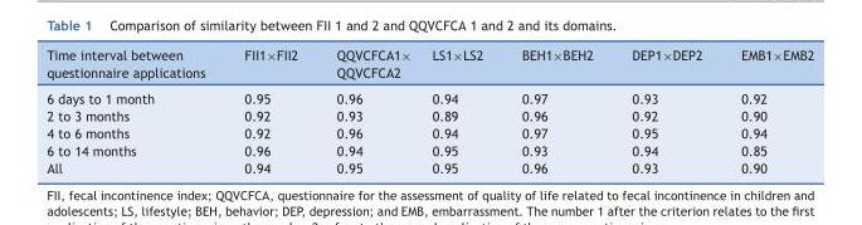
<table><thead><tr><td>Time interval between questionnaire applications</td><td>FII1×FII2</td><td>QQVCFCA1× QQVCFCA2</td><td>LS1×LS2</td><td>BEH1×BEH2</td><td>DEP1×DEP2</td><td>EMB1×EMB2</td></tr></thead><tbody><tr><td>6 days to 1 month</td><td>0.95</td><td>0.96</td><td>0.94</td><td>0.97</td><td>0.93</td><td>0.92</td></tr><tr><td>2 to 3 months</td><td>0.92</td><td>0.93</td><td>0.89</td><td>0.96</td><td>0.92</td><td>0.90</td></tr><tr><td>4 to 6 months</td><td>0.92</td><td>0.96</td><td>0.94</td><td>0.97</td><td>0.95</td><td>0.94</td></tr><tr><td>6 to 14 months</td><td>0.96</td><td>0.94</td><td>0.95</td><td>0.93</td><td>0.94</td><td>0.85</td></tr><tr><td>All</td><td>0.94</td><td>0.95</td><td>0.95</td><td>0.96</td><td>0.93</td><td>0.90</td></tr></tbody></table>